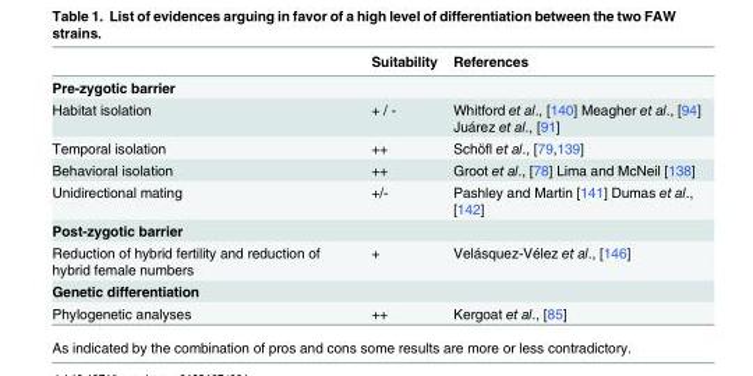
<table><thead><tr><td></td><td>Suitability</td><td>References</td></tr></thead><tbody><tr><td colspan="3">Pre-zygotic barrier</td></tr><tr><td>Habitat isolation</td><td>+ / -</td><td>Whitford et al., [140] Meagher et al., [94] Juárez et al., [91]</td></tr><tr><td>Temporal isolation</td><td>++</td><td>Schöfl et al., [79,139]</td></tr><tr><td>Behavioral isolation</td><td>++</td><td>Groot et al., [78] Lima and McNeil [138]</td></tr><tr><td>Unidirectional mating</td><td>+/-</td><td>Pashley and Martin [141] Dumas et al., [142]</td></tr><tr><td colspan="3">Post-zygotic barrier</td></tr><tr><td>Reduction of hybrid fertility and reduction of hybrid female numbers</td><td>+</td><td>Velásquez-Vélez et al., [146]</td></tr><tr><td colspan="3">Genetic differentiation</td></tr><tr><td>Phylogenetic analyses</td><td>++</td><td>Kergoat et al., [85]</td></tr></tbody></table>